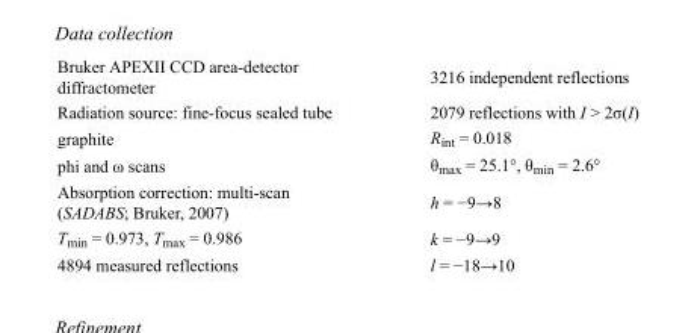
<table><tbody><tr><td>Bruker APEXII CCD area-detector diffractometer</td><td>3216 independent reflections</td></tr><tr><td>Radiation source: fine-focus sealed tube</td><td>2079 reflections with I &gt; 2σ(I)</td></tr><tr><td>graphite</td><td>R<sub>int</sub> = 0.018</td></tr><tr><td>phi and ω scans</td><td>θ<sub>max</sub> = 25.1°, θ<sub>min</sub> = 2.6°</td></tr><tr><td>Absorption correction: multi-scan (SADABS; Bruker, 2007)</td><td>h = −9→8</td></tr><tr><td>T<sub>min</sub> = 0.973, T<sub>max</sub> = 0.986</td><td>k = −9→9</td></tr><tr><td>4894 measured reflections</td><td>l = −18→10</td></tr></tbody></table>